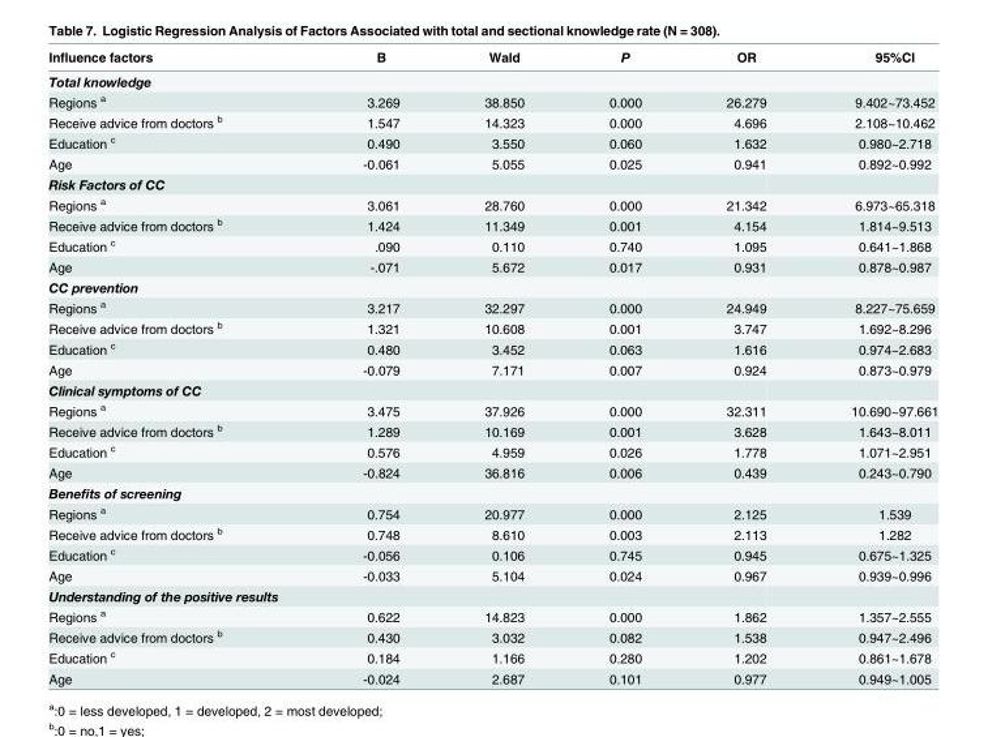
<table><thead><tr><td>Influence factors</td><td>B</td><td>Wald</td><td>P</td><td>OR</td><td>95%CI</td></tr></thead><tbody><tr><td colspan="6">Total knowledge</td></tr><tr><td>Regions <sup>a</sup></td><td>3.269</td><td>38.850</td><td>0.000</td><td>26.279</td><td>9.402~73.452</td></tr><tr><td>Receive advice from doctors <sup>b</sup></td><td>1.547</td><td>14.323</td><td>0.000</td><td>4.696</td><td>2.108~10.462</td></tr><tr><td>Education <sup>c</sup></td><td>0.490</td><td>3.550</td><td>0.060</td><td>1.632</td><td>0.980~2.718</td></tr><tr><td>Age</td><td>-0.061</td><td>5.055</td><td>0.025</td><td>0.941</td><td>0.892~0.992</td></tr><tr><td colspan="6">Risk Factors of CC</td></tr><tr><td>Regions <sup>a</sup></td><td>3.061</td><td>28.760</td><td>0.000</td><td>21.342</td><td>6.973~65.318</td></tr><tr><td>Receive advice from doctors <sup>b</sup></td><td>1.424</td><td>11.349</td><td>0.001</td><td>4.154</td><td>1.814~9.513</td></tr><tr><td>Education <sup>c</sup></td><td>.090</td><td>0.110</td><td>0.740</td><td>1.095</td><td>0.641~1.868</td></tr><tr><td>Age</td><td>-.071</td><td>5.672</td><td>0.017</td><td>0.931</td><td>0.878~0.987</td></tr><tr><td colspan="6">CC prevention</td></tr><tr><td>Regions <sup>a</sup></td><td>3.217</td><td>32.297</td><td>0.000</td><td>24.949</td><td>8.227~75.659</td></tr><tr><td>Receive advice from doctors <sup>b</sup></td><td>1.321</td><td>10.608</td><td>0.001</td><td>3.747</td><td>1.692~8.296</td></tr><tr><td>Education <sup>c</sup></td><td>0.480</td><td>3.452</td><td>0.063</td><td>1.616</td><td>0.974~2.683</td></tr><tr><td>Age</td><td>-0.079</td><td>7.171</td><td>0.007</td><td>0.924</td><td>0.873~0.979</td></tr><tr><td colspan="6">Clinical symptoms of CC</td></tr><tr><td>Regions <sup>a</sup></td><td>3.475</td><td>37.926</td><td>0.000</td><td>32.311</td><td>10.690~97.661</td></tr><tr><td>Receive advice from doctors <sup>b</sup></td><td>1.289</td><td>10.169</td><td>0.001</td><td>3.628</td><td>1.643~8.011</td></tr><tr><td>Education <sup>c</sup></td><td>0.576</td><td>4.959</td><td>0.026</td><td>1.778</td><td>1.071~2.951</td></tr><tr><td>Age</td><td>-0.824</td><td>36.816</td><td>0.006</td><td>0.439</td><td>0.243~0.790</td></tr><tr><td colspan="6">Benefits of screening</td></tr><tr><td>Regions <sup>a</sup></td><td>0.754</td><td>20.977</td><td>0.000</td><td>2.125</td><td>1.539</td></tr><tr><td>Receive advice from doctors <sup>b</sup></td><td>0.748</td><td>8.610</td><td>0.003</td><td>2.113</td><td>1.282</td></tr><tr><td>Education <sup>c</sup></td><td>-0.056</td><td>0.106</td><td>0.745</td><td>0.945</td><td>0.675~1.325</td></tr><tr><td>Age</td><td>-0.033</td><td>5.104</td><td>0.024</td><td>0.967</td><td>0.939~0.996</td></tr><tr><td colspan="6">Understanding of the positive results</td></tr><tr><td>Regions <sup>a</sup></td><td>0.622</td><td>14.823</td><td>0.000</td><td>1.862</td><td>1.357~2.555</td></tr><tr><td>Receive advice from doctors <sup>b</sup></td><td>0.430</td><td>3.032</td><td>0.082</td><td>1.538</td><td>0.947~2.496</td></tr><tr><td>Education <sup>c</sup></td><td>0.184</td><td>1.166</td><td>0.280</td><td>1.202</td><td>0.861~1.678</td></tr><tr><td>Age</td><td>-0.024</td><td>2.687</td><td>0.101</td><td>0.977</td><td>0.949~1.005</td></tr></tbody></table>